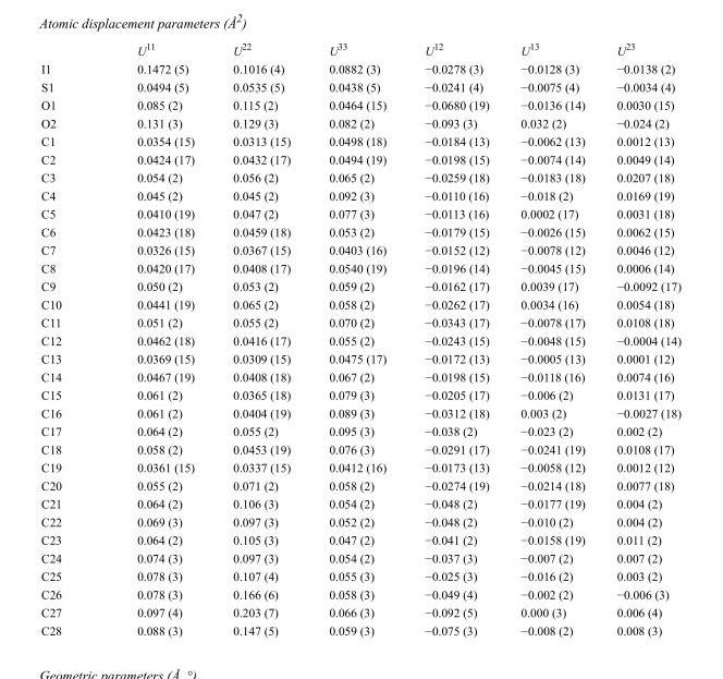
<table><thead><tr><td></td><td>U<sup>11</sup></td><td>U<sup>22</sup></td><td>U<sup>33</sup></td><td>U<sup>12</sup></td><td>U<sup>13</sup></td><td>U<sup>23</sup></td></tr></thead><tbody><tr><td>I1</td><td>0.1472 (5)</td><td>0.1016 (4)</td><td>0.0882 (3)</td><td>−0.0278 (3)</td><td>−0.0128 (3)</td><td>−0.0138 (2)</td></tr><tr><td>S1</td><td>0.0494 (5)</td><td>0.0535 (5)</td><td>0.0438 (5)</td><td>−0.0241 (4)</td><td>−0.0075 (4)</td><td>−0.0034 (4)</td></tr><tr><td>O1</td><td>0.085 (2)</td><td>0.115 (2)</td><td>0.0464 (15)</td><td>−0.0680 (19)</td><td>−0.0136 (14)</td><td>0.0030 (15)</td></tr><tr><td>O2</td><td>0.131 (3)</td><td>0.129 (3)</td><td>0.082 (2)</td><td>−0.093 (3)</td><td>0.032 (2)</td><td>−0.024 (2)</td></tr><tr><td>C1</td><td>0.0354 (15)</td><td>0.0313 (15)</td><td>0.0498 (18)</td><td>−0.0184 (13)</td><td>−0.0062 (13)</td><td>0.0012 (13)</td></tr><tr><td>C2</td><td>0.0424 (17)</td><td>0.0432 (17)</td><td>0.0494 (19)</td><td>−0.0198 (15)</td><td>−0.0074 (14)</td><td>0.0049 (14)</td></tr><tr><td>C3</td><td>0.054 (2)</td><td>0.056 (2)</td><td>0.065 (2)</td><td>−0.0259 (18)</td><td>−0.0183 (18)</td><td>0.0207 (18)</td></tr><tr><td>C4</td><td>0.045 (2)</td><td>0.045 (2)</td><td>0.092 (3)</td><td>−0.0110 (16)</td><td>−0.018 (2)</td><td>0.0169 (19)</td></tr><tr><td>C5</td><td>0.0410 (19)</td><td>0.047 (2)</td><td>0.077 (3)</td><td>−0.0113 (16)</td><td>0.0002 (17)</td><td>0.0031 (18)</td></tr><tr><td>C6</td><td>0.0423 (18)</td><td>0.0459 (18)</td><td>0.053 (2)</td><td>−0.0179 (15)</td><td>−0.0026 (15)</td><td>0.0062 (15)</td></tr><tr><td>C7</td><td>0.0326 (15)</td><td>0.0367 (15)</td><td>0.0403 (16)</td><td>−0.0152 (12)</td><td>−0.0078 (12)</td><td>0.0046 (12)</td></tr><tr><td>C8</td><td>0.0420 (17)</td><td>0.0408 (17)</td><td>0.0540 (19)</td><td>−0.0196 (14)</td><td>−0.0045 (15)</td><td>0.0006 (14)</td></tr><tr><td>C9</td><td>0.050 (2)</td><td>0.053 (2)</td><td>0.059 (2)</td><td>−0.0162 (17)</td><td>0.0039 (17)</td><td>−0.0092 (17)</td></tr><tr><td>C10</td><td>0.0441 (19)</td><td>0.065 (2)</td><td>0.058 (2)</td><td>−0.0262 (17)</td><td>0.0034 (16)</td><td>0.0054 (18)</td></tr><tr><td>C11</td><td>0.051 (2)</td><td>0.055 (2)</td><td>0.070 (2)</td><td>−0.0343 (17)</td><td>−0.0078 (17)</td><td>0.0108 (18)</td></tr><tr><td>C12</td><td>0.0462 (18)</td><td>0.0416 (17)</td><td>0.055 (2)</td><td>−0.0243 (15)</td><td>−0.0048 (15)</td><td>−0.0004 (14)</td></tr><tr><td>C13</td><td>0.0369 (15)</td><td>0.0309 (15)</td><td>0.0475 (17)</td><td>−0.0172 (13)</td><td>−0.0005 (13)</td><td>0.0001 (12)</td></tr><tr><td>C14</td><td>0.0467 (19)</td><td>0.0408 (18)</td><td>0.067 (2)</td><td>−0.0198 (15)</td><td>−0.0118 (16)</td><td>0.0074 (16)</td></tr><tr><td>C15</td><td>0.061 (2)</td><td>0.0365 (18)</td><td>0.079 (3)</td><td>−0.0205 (17)</td><td>−0.006 (2)</td><td>0.0131 (17)</td></tr><tr><td>C16</td><td>0.061 (2)</td><td>0.0404 (19)</td><td>0.089 (3)</td><td>−0.0312 (18)</td><td>0.003 (2)</td><td>−0.0027 (18)</td></tr><tr><td>C17</td><td>0.064 (2)</td><td>0.055 (2)</td><td>0.095 (3)</td><td>−0.038 (2)</td><td>−0.023 (2)</td><td>0.002 (2)</td></tr><tr><td>C18</td><td>0.058 (2)</td><td>0.0453 (19)</td><td>0.076 (3)</td><td>−0.0291 (17)</td><td>−0.0241 (19)</td><td>0.0108 (17)</td></tr><tr><td>C19</td><td>0.0361 (15)</td><td>0.0337 (15)</td><td>0.0412 (16)</td><td>−0.0173 (13)</td><td>−0.0058 (12)</td><td>0.0012 (12)</td></tr><tr><td>C20</td><td>0.055 (2)</td><td>0.071 (2)</td><td>0.058 (2)</td><td>−0.0274 (19)</td><td>−0.0214 (18)</td><td>0.0077 (18)</td></tr><tr><td>C21</td><td>0.064 (2)</td><td>0.106 (3)</td><td>0.054 (2)</td><td>−0.048 (2)</td><td>−0.0177 (19)</td><td>0.004 (2)</td></tr><tr><td>C22</td><td>0.069 (3)</td><td>0.097 (3)</td><td>0.052 (2)</td><td>−0.048 (2)</td><td>−0.010 (2)</td><td>0.004 (2)</td></tr><tr><td>C23</td><td>0.064 (2)</td><td>0.105 (3)</td><td>0.047 (2)</td><td>−0.041 (2)</td><td>−0.0158 (19)</td><td>0.011 (2)</td></tr><tr><td>C24</td><td>0.074 (3)</td><td>0.097 (3)</td><td>0.054 (2)</td><td>−0.037 (3)</td><td>−0.007 (2)</td><td>0.007 (2)</td></tr><tr><td>C25</td><td>0.078 (3)</td><td>0.107 (4)</td><td>0.055 (3)</td><td>−0.025 (3)</td><td>−0.016 (2)</td><td>0.003 (2)</td></tr><tr><td>C26</td><td>0.078 (3)</td><td>0.166 (6)</td><td>0.058 (3)</td><td>−0.049 (4)</td><td>−0.002 (2)</td><td>−0.006 (3)</td></tr><tr><td>C27</td><td>0.097 (4)</td><td>0.203 (7)</td><td>0.066 (3)</td><td>−0.092 (5)</td><td>0.000 (3)</td><td>0.006 (4)</td></tr><tr><td>C28</td><td>0.088 (3)</td><td>0.147 (5)</td><td>0.059 (3)</td><td>−0.075 (3)</td><td>−0.008 (2)</td><td>0.008 (3)</td></tr></tbody></table>